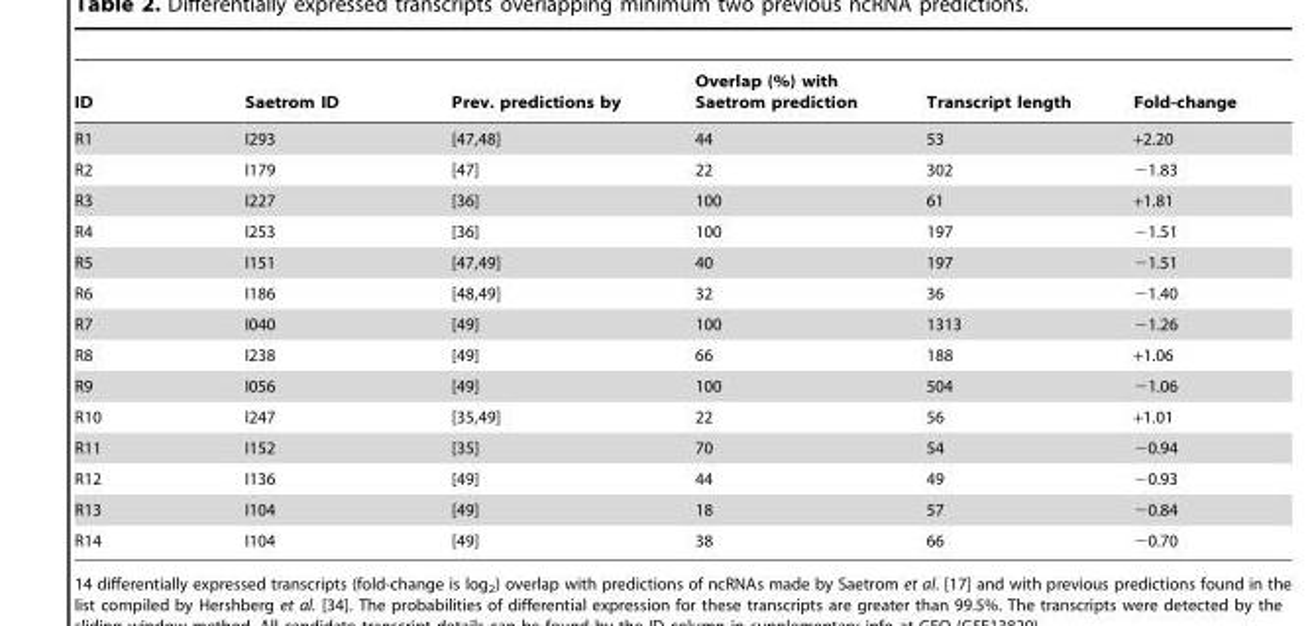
<table><thead><tr><td>ID</td><td>Saetrom ID</td><td>Prev. predictions by</td><td>Overlap (%) with Saetrom prediction</td><td>Transcript length</td><td>Fold-change</td></tr></thead><tbody><tr><td>R1</td><td>I293</td><td>[47,48]</td><td>44</td><td>53</td><td>+2.20</td></tr><tr><td>R2</td><td>I179</td><td>[47]</td><td>22</td><td>302</td><td>−1.83</td></tr><tr><td>R3</td><td>I227</td><td>[36]</td><td>100</td><td>61</td><td>+1.81</td></tr><tr><td>R4</td><td>I253</td><td>[36]</td><td>100</td><td>197</td><td>−1.51</td></tr><tr><td>R5</td><td>I151</td><td>[47,49]</td><td>40</td><td>197</td><td>−1.51</td></tr><tr><td>R6</td><td>I186</td><td>[48,49]</td><td>32</td><td>36</td><td>−1.40</td></tr><tr><td>R7</td><td>I040</td><td>[49]</td><td>100</td><td>1313</td><td>−1.26</td></tr><tr><td>R8</td><td>I238</td><td>[49]</td><td>66</td><td>188</td><td>+1.06</td></tr><tr><td>R9</td><td>I056</td><td>[49]</td><td>100</td><td>504</td><td>−1.06</td></tr><tr><td>R10</td><td>I247</td><td>[35,49]</td><td>22</td><td>56</td><td>+1.01</td></tr><tr><td>R11</td><td>I152</td><td>[35]</td><td>70</td><td>54</td><td>−0.94</td></tr><tr><td>R12</td><td>I136</td><td>[49]</td><td>44</td><td>49</td><td>−0.93</td></tr><tr><td>R13</td><td>I104</td><td>[49]</td><td>18</td><td>57</td><td>−0.84</td></tr><tr><td>R14</td><td>I104</td><td>[49]</td><td>38</td><td>66</td><td>−0.70</td></tr></tbody></table>